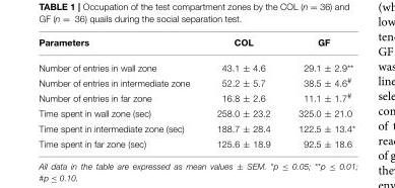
<table><thead><tr><td>Parameters</td><td>COL</td><td>GF</td></tr></thead><tbody><tr><td>Number of entries in wall zone</td><td>43.1 ± 4.6</td><td>29.1 ± 2.9**</td></tr><tr><td>Number of entries in intermediate zone</td><td>52.2 ± 5.7</td><td>38.5 ± 4.6<sup>#</sup></td></tr><tr><td>Number of entries in far zone</td><td>16.8 ± 2.6</td><td>11.1 ± 1.7<sup>#</sup></td></tr><tr><td>Time spent in wall zone (sec)</td><td>258.0 ± 23.2</td><td>325.0 ± 21.0</td></tr><tr><td>Time spent in intermediate zone (sec)</td><td>188.7 ± 28.4</td><td>122.5 ± 13.4*</td></tr><tr><td>Time spent in far zone (sec)</td><td>125.6 ± 18.9</td><td>92.5 ± 18.6</td></tr></tbody></table>